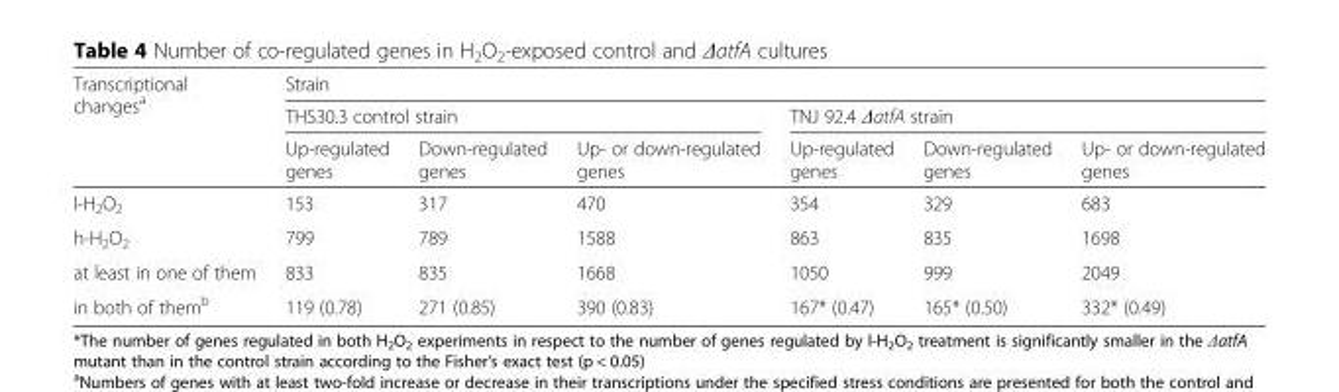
<table><thead><tr><td rowspan="3">Transcriptional changes<sup>a</sup></td><td colspan="6">Strain</td></tr><tr><td colspan="3">THS30.3 control strain</td><td colspan="3">TNJ 92.4 ΔatfA strain</td></tr><tr><td>Up-regulated genes</td><td>Down-regulated genes</td><td>Up- or down-regulated genes</td><td>Up-regulated genes</td><td>Down-regulated genes</td><td>Up- or down-regulated genes</td></tr></thead><tbody><tr><td>l-H<sub>2</sub>O<sub>2</sub></td><td>153</td><td>317</td><td>470</td><td>354</td><td>329</td><td>683</td></tr><tr><td>h-H<sub>2</sub>O<sub>2</sub></td><td>799</td><td>789</td><td>1588</td><td>863</td><td>835</td><td>1698</td></tr><tr><td>at least in one of them</td><td>833</td><td>835</td><td>1668</td><td>1050</td><td>999</td><td>2049</td></tr><tr><td>in both of them<sup>b</sup></td><td>119 (0.78)</td><td>271 (0.85)</td><td>390 (0.83)</td><td>167* (0.47)</td><td>165* (0.50)</td><td>332* (0.49)</td></tr></tbody></table>